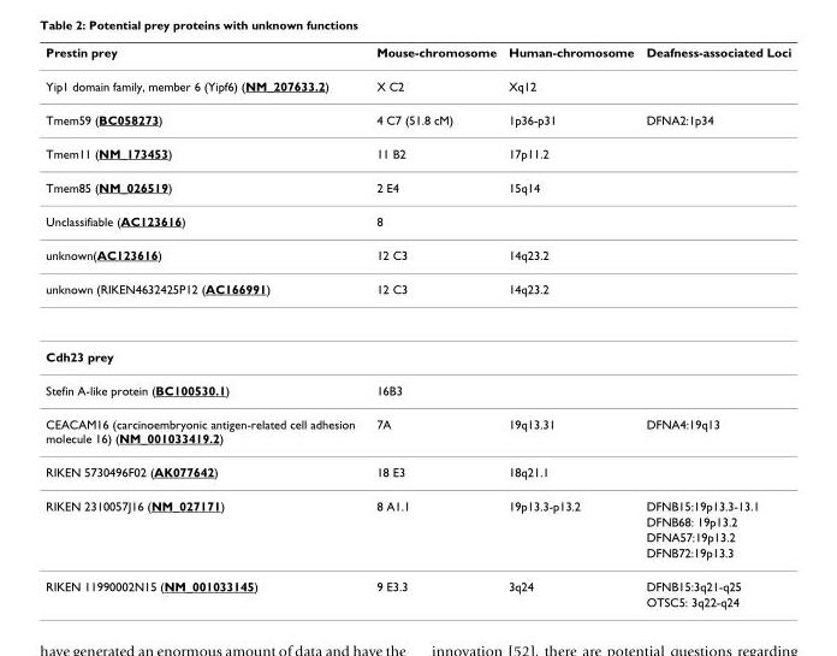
<table><thead><tr><td>Prestin prey</td><td>Mouse-chromosome</td><td>Human-chromosome</td><td>Deafness-associated Loci</td></tr></thead><tbody><tr><td>Yip1 domain family, member 6 (Yipf6) (NM_207633.2)</td><td>X C2</td><td>Xq12</td><td></td></tr><tr><td>Tmem59 (BC058273)</td><td>4 C7 (51.8 cM)</td><td>1p36-p31</td><td>DFNA2:1p34</td></tr><tr><td>Tmem11 (NM_173453)</td><td>11 B2</td><td>17p11.2</td><td></td></tr><tr><td>Tmem85 (NM_026519)</td><td>2 E4</td><td>15q14</td><td></td></tr><tr><td>Unclassifiable (AC123616)</td><td>8</td><td></td><td></td></tr><tr><td>unknown(AC123616)</td><td>12 C3</td><td>14q23.2</td><td></td></tr><tr><td>unknown (RIKEN4632425P12 (AC166991)</td><td>12 C3</td><td>14q23.2</td><td></td></tr><tr><td colspan="4">Cdh23 prey</td></tr><tr><td>Stefin A-like protein (BC100530.1)</td><td>16B3</td><td></td><td></td></tr><tr><td>CEACAM16 (carcinoembryonic antigen-related cell adhesion molecule 16) (NM_001033419.2)</td><td>7A</td><td>19q13.31</td><td>DFNA4:19q13</td></tr><tr><td>RIKEN 5730496F02 (AK077642)</td><td>18 E3</td><td>18q21.1</td><td></td></tr><tr><td rowspan="4">RIKEN 2310057J16 (NM_027171)</td><td>8 A1.1</td><td>19p13.3-p13.2</td><td>DFNB15:19p13.3-13.1</td></tr><tr><td></td><td></td><td>DFNB68: 19p13.2</td></tr><tr><td></td><td></td><td>DFNA57:19p13.2</td></tr><tr><td></td><td></td><td>DFNB72:19p13.3</td></tr><tr><td rowspan="2">RIKEN 11990002N15 (NM_001033145)</td><td>9 E3.3</td><td>3q24</td><td>DFNB15:3q21-q25</td></tr><tr><td></td><td></td><td>OTSC5: 3q22-q24</td></tr></tbody></table>